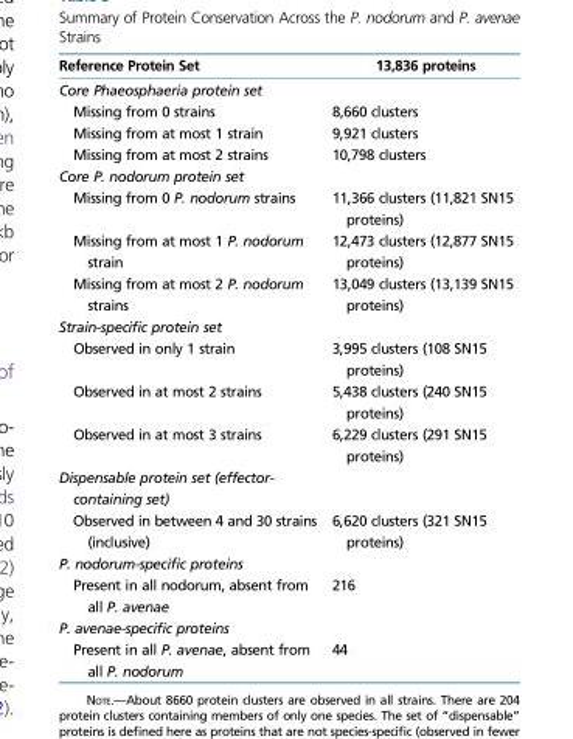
<table><thead><tr><td>Reference Protein Set</td><td>13,836 proteins</td></tr></thead><tbody><tr><td colspan="2">Core Phaeosphaeria protein set</td></tr><tr><td>Missing from 0 strains</td><td>8,660 clusters</td></tr><tr><td>Missing from at most 1 strain</td><td>9,921 clusters</td></tr><tr><td>Missing from at most 2 strains</td><td>10,798 clusters</td></tr><tr><td colspan="2">Core P. nodorum protein set</td></tr><tr><td>Missing from 0 P. nodorum strains</td><td>11,366 clusters (11,821 SN15 proteins)</td></tr><tr><td>Missing from at most 1 P. nodorum strain</td><td>12,473 clusters (12,877 SN15 proteins)</td></tr><tr><td>Missing from at most 2 P. nodorum strains</td><td>13,049 clusters (13,139 SN15 proteins)</td></tr><tr><td colspan="2">Strain-specific protein set</td></tr><tr><td>Observed in only 1 strain</td><td>3,995 clusters (108 SN15 proteins)</td></tr><tr><td>Observed in at most 2 strains</td><td>5,438 clusters (240 SN15 proteins)</td></tr><tr><td>Observed in at most 3 strains</td><td>6,229 clusters (291 SN15 proteins)</td></tr><tr><td colspan="2">Dispensable protein set (effector- containing set)</td></tr><tr><td>Observed in between 4 and 30 strains (inclusive)</td><td>6,620 clusters (321 SN15 proteins)</td></tr><tr><td colspan="2">P. nodorum-specific proteins</td></tr><tr><td>Present in all nodorum, absent from all P. avenae</td><td>216</td></tr><tr><td colspan="2">P. avenae-specific proteins</td></tr><tr><td>Present in all P. avenae, absent from all P. nodorum</td><td>44</td></tr></tbody></table>